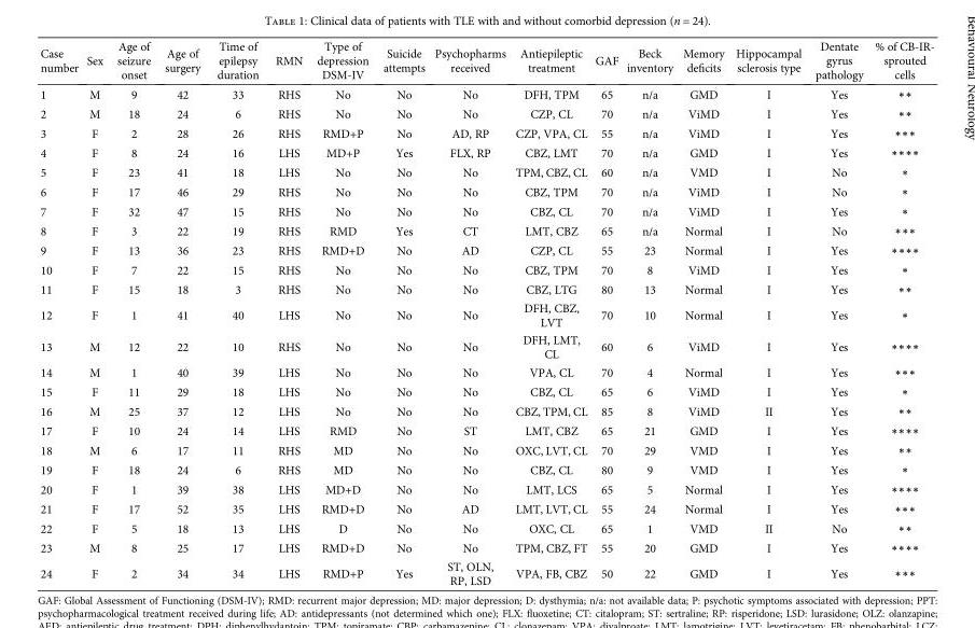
<table><thead><tr><td>Case number</td><td>Sex</td><td>Age of seizure onset</td><td>Age of surgery</td><td>Time of epilepsy duration</td><td>RMN</td><td>Type of depression DSM-IV</td><td>Suicide attempts</td><td>Psychopharms received</td><td>Antiepileptic treatment</td><td>GAF</td><td>Beck inventory</td><td>Memory deficits</td><td>Hippocampal sclerosis type</td><td>Dentate gyrus pathology</td><td>% of CB-IR- sprouted cells</td></tr></thead><tbody><tr><td>1</td><td>M</td><td>9</td><td>42</td><td>33</td><td>RHS</td><td>No</td><td>No</td><td>No</td><td>DFH, TPM</td><td>65</td><td>n/a</td><td>GMD</td><td>I</td><td>Yes</td><td>∗∗</td></tr><tr><td>2</td><td>M</td><td>18</td><td>24</td><td>6</td><td>RHS</td><td>No</td><td>No</td><td>No</td><td>CZP, CL</td><td>70</td><td>n/a</td><td>ViMD</td><td>I</td><td>Yes</td><td>∗∗</td></tr><tr><td>3</td><td>F</td><td>2</td><td>28</td><td>26</td><td>RHS</td><td>RMD+P</td><td>No</td><td>AD, RP</td><td>CZP, VPA, CL</td><td>55</td><td>n/a</td><td>ViMD</td><td>I</td><td>Yes</td><td>∗∗∗</td></tr><tr><td>4</td><td>F</td><td>8</td><td>24</td><td>16</td><td>LHS</td><td>MD+P</td><td>Yes</td><td>FLX, RP</td><td>CBZ, LMT</td><td>70</td><td>n/a</td><td>GMD</td><td>I</td><td>Yes</td><td>∗∗∗∗</td></tr><tr><td>5</td><td>F</td><td>23</td><td>41</td><td>18</td><td>LHS</td><td>No</td><td>No</td><td>No</td><td>TPM, CBZ, CL</td><td>60</td><td>n/a</td><td>VMD</td><td>I</td><td>No</td><td>∗</td></tr><tr><td>6</td><td>F</td><td>17</td><td>46</td><td>29</td><td>RHS</td><td>No</td><td>No</td><td>No</td><td>CBZ, TPM</td><td>70</td><td>n/a</td><td>ViMD</td><td>I</td><td>No</td><td>∗</td></tr><tr><td>7</td><td>F</td><td>32</td><td>47</td><td>15</td><td>RHS</td><td>No</td><td>No</td><td>No</td><td>CBZ, CL</td><td>70</td><td>n/a</td><td>ViMD</td><td>I</td><td>Yes</td><td>∗</td></tr><tr><td>8</td><td>F</td><td>3</td><td>22</td><td>19</td><td>RHS</td><td>RMD</td><td>Yes</td><td>CT</td><td>LMT, CBZ</td><td>65</td><td>n/a</td><td>Normal</td><td>I</td><td>No</td><td>∗∗∗</td></tr><tr><td>9</td><td>F</td><td>13</td><td>36</td><td>23</td><td>RHS</td><td>RMD+D</td><td>No</td><td>AD</td><td>CZP, CL</td><td>55</td><td>23</td><td>Normal</td><td>I</td><td>Yes</td><td>∗∗∗∗</td></tr><tr><td>10</td><td>F</td><td>7</td><td>22</td><td>15</td><td>RHS</td><td>No</td><td>No</td><td>No</td><td>CBZ, TPM</td><td>70</td><td>8</td><td>ViMD</td><td>I</td><td>Yes</td><td>∗</td></tr><tr><td>11</td><td>F</td><td>15</td><td>18</td><td>3</td><td>RHS</td><td>No</td><td>No</td><td>No</td><td>CBZ, LTG</td><td>80</td><td>13</td><td>Normal</td><td>I</td><td>Yes</td><td>∗∗</td></tr><tr><td>12</td><td>F</td><td>1</td><td>41</td><td>40</td><td>LHS</td><td>No</td><td>No</td><td>No</td><td>DFH, CBZ, LVT</td><td>70</td><td>10</td><td>Normal</td><td>I</td><td>Yes</td><td>∗</td></tr><tr><td>13</td><td>M</td><td>12</td><td>22</td><td>10</td><td>RHS</td><td>No</td><td>No</td><td>No</td><td>DFH, LMT, CL</td><td>60</td><td>6</td><td>ViMD</td><td>I</td><td>Yes</td><td>∗∗∗∗</td></tr><tr><td>14</td><td>M</td><td>1</td><td>40</td><td>39</td><td>LHS</td><td>No</td><td>No</td><td>No</td><td>VPA, CL</td><td>70</td><td>4</td><td>Normal</td><td>I</td><td>Yes</td><td>∗∗∗</td></tr><tr><td>15</td><td>F</td><td>11</td><td>29</td><td>18</td><td>LHS</td><td>No</td><td>No</td><td>No</td><td>CBZ, CL</td><td>65</td><td>6</td><td>ViMD</td><td>I</td><td>Yes</td><td>∗</td></tr><tr><td>16</td><td>M</td><td>25</td><td>37</td><td>12</td><td>LHS</td><td>No</td><td>No</td><td>No</td><td>CBZ, TPM, CL</td><td>85</td><td>8</td><td>ViMD</td><td>II</td><td>Yes</td><td>∗∗</td></tr><tr><td>17</td><td>F</td><td>10</td><td>24</td><td>14</td><td>LHS</td><td>RMD</td><td>No</td><td>ST</td><td>LMT, CBZ</td><td>65</td><td>21</td><td>GMD</td><td>I</td><td>Yes</td><td>∗∗∗∗</td></tr><tr><td>18</td><td>M</td><td>6</td><td>17</td><td>11</td><td>RHS</td><td>MD</td><td>No</td><td>No</td><td>OXC, LVT, CL</td><td>70</td><td>29</td><td>VMD</td><td>I</td><td>Yes</td><td>∗∗</td></tr><tr><td>19</td><td>F</td><td>18</td><td>24</td><td>6</td><td>RHS</td><td>MD</td><td>No</td><td>No</td><td>CBZ, CL</td><td>80</td><td>9</td><td>VMD</td><td>I</td><td>Yes</td><td>∗</td></tr><tr><td>20</td><td>F</td><td>1</td><td>39</td><td>38</td><td>LHS</td><td>MD+D</td><td>No</td><td>No</td><td>LMT, LCS</td><td>65</td><td>5</td><td>Normal</td><td>I</td><td>Yes</td><td>∗∗∗∗</td></tr><tr><td>21</td><td>F</td><td>17</td><td>52</td><td>35</td><td>LHS</td><td>RMD+D</td><td>No</td><td>AD</td><td>LMT, LVT, CL</td><td>55</td><td>24</td><td>Normal</td><td>I</td><td>Yes</td><td>∗∗∗</td></tr><tr><td>22</td><td>F</td><td>5</td><td>18</td><td>13</td><td>LHS</td><td>D</td><td>No</td><td>No</td><td>OXC, CL</td><td>65</td><td>1</td><td>VMD</td><td>II</td><td>No</td><td>∗∗</td></tr><tr><td>23</td><td>M</td><td>8</td><td>25</td><td>17</td><td>LHS</td><td>RMD+D</td><td>No</td><td>No</td><td>TPM, CBZ, FT</td><td>55</td><td>20</td><td>GMD</td><td>I</td><td>Yes</td><td>∗∗∗∗</td></tr><tr><td>24</td><td>F</td><td>2</td><td>34</td><td>34</td><td>LHS</td><td>RMD+P</td><td>Yes</td><td>ST, OLN, RP, LSD</td><td>VPA, FB, CBZ</td><td>50</td><td>22</td><td>GMD</td><td>I</td><td>Yes</td><td>∗∗∗</td></tr></tbody></table>